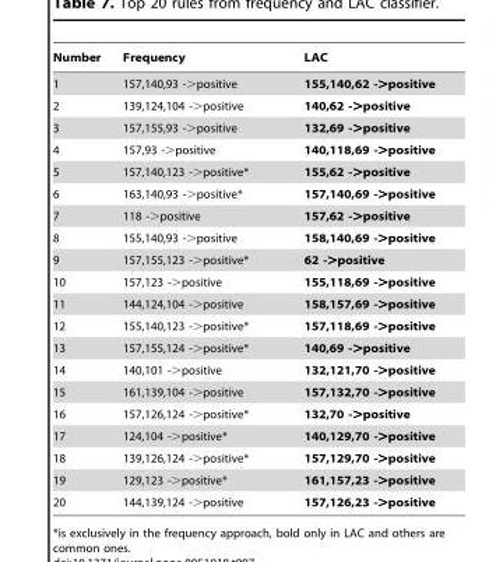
<table><thead><tr><td>Number</td><td>Frequency</td><td>LAC</td></tr></thead><tbody><tr><td>1</td><td>157,140,93 -&gt;positive</td><td>155,140,62 -&gt;positive</td></tr><tr><td>2</td><td>139,124,104 -&gt;positive</td><td>140,62 -&gt;positive</td></tr><tr><td>3</td><td>157,155,93 -&gt;positive</td><td>132,69 -&gt;positive</td></tr><tr><td>4</td><td>157,93 -&gt;positive</td><td>140,118,69 -&gt;positive</td></tr><tr><td>5</td><td>157,140,123 -&gt;positive*</td><td>155,62 -&gt;positive</td></tr><tr><td>6</td><td>163,140,93 -&gt;positive*</td><td>157,140,69 -&gt;positive</td></tr><tr><td>7</td><td>118 -&gt;positive</td><td>157,62 -&gt;positive</td></tr><tr><td>8</td><td>155,140,93 -&gt;positive</td><td>158,140,69 -&gt;positive</td></tr><tr><td>9</td><td>157,155,123 -&gt;positive*</td><td>62 -&gt;positive</td></tr><tr><td>10</td><td>157,123 -&gt;positive</td><td>155,118,69 -&gt;positive</td></tr><tr><td>11</td><td>144,124,104 -&gt;positive</td><td>158,157,69 -&gt;positive</td></tr><tr><td>12</td><td>155,140,123 -&gt;positive*</td><td>157,118,69 -&gt;positive</td></tr><tr><td>13</td><td>157,155,124 -&gt;positive*</td><td>140,69 -&gt;positive</td></tr><tr><td>14</td><td>140,101 -&gt;positive</td><td>132,121,70 -&gt;positive</td></tr><tr><td>15</td><td>161,139,104 -&gt;positive</td><td>157,132,70 -&gt;positive</td></tr><tr><td>16</td><td>157,126,124 -&gt;positive*</td><td>132,70 -&gt;positive</td></tr><tr><td>17</td><td>124,104 -&gt;positive*</td><td>140,129,70 -&gt;positive</td></tr><tr><td>18</td><td>139,126,124 -&gt;positive*</td><td>157,129,70 -&gt;positive</td></tr><tr><td>19</td><td>129,123 -&gt;positive*</td><td>161,157,23 -&gt;positive</td></tr><tr><td>20</td><td>144,139,124 -&gt;positive</td><td>157,126,23 -&gt;positive</td></tr></tbody></table>